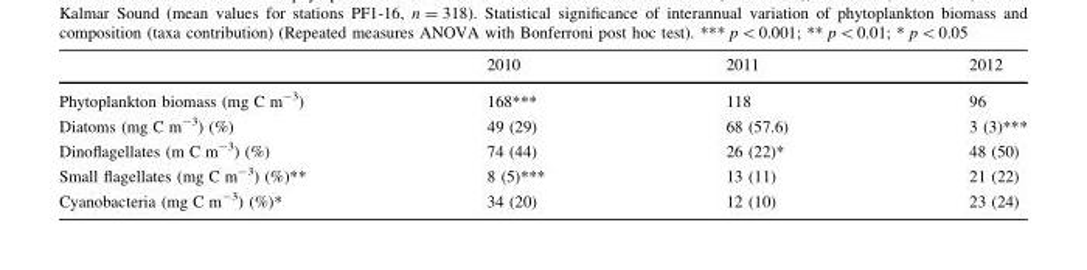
<table><thead><tr><td></td><td>2010</td><td>2011</td><td>2012</td></tr></thead><tbody><tr><td>Phytoplankton biomass (mg C m<sup>-3</sup>)</td><td>168***</td><td>118</td><td>96</td></tr><tr><td>Diatoms (mg C m<sup>-3</sup>) (%)</td><td>49 (29)</td><td>68 (57.6)</td><td>3 (3)***</td></tr><tr><td>Dinoflagellates (m C m<sup>-3</sup>) (%)</td><td>74 (44)</td><td>26 (22)*</td><td>48 (50)</td></tr><tr><td>Small flagellates (mg C m<sup>-3</sup>) (%)**</td><td>8 (5)***</td><td>13 (11)</td><td>21 (22)</td></tr><tr><td>Cyanobacteria (mg C m<sup>-3</sup>) (%)*</td><td>34 (20)</td><td>12 (10)</td><td>23 (24)</td></tr></tbody></table>